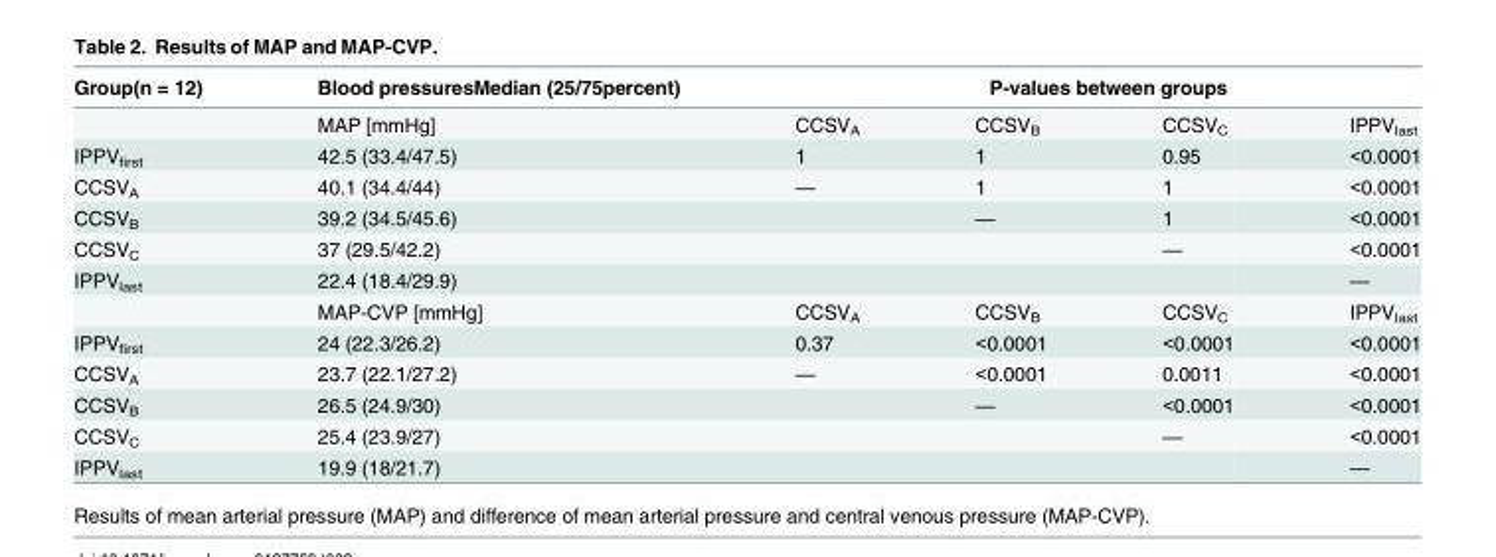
<table><thead><tr><td rowspan="2">Group(n = 12)</td><td rowspan="2">Blood pressuresMedian (25/75percent) MAP [mmHg]</td><td colspan="4">P-values between groups</td></tr><tr><td>CCSV<sub>A</sub></td><td>CCSV<sub>B</sub></td><td>CCSV<sub>C</sub></td><td>IPPV<sub>last</sub></td></tr></thead><tbody><tr><td>IPPV<sub>first</sub></td><td>42.5 (33.4/47.5)</td><td>1</td><td>1</td><td>0.95</td><td>&lt;0.0001</td></tr><tr><td>CCSV<sub>A</sub></td><td>40.1 (34.4/44)</td><td>—</td><td>1</td><td>1</td><td>&lt;0.0001</td></tr><tr><td>CCSV<sub>B</sub></td><td>39.2 (34.5/45.6)</td><td></td><td>—</td><td>1</td><td>&lt;0.0001</td></tr><tr><td>CCSV<sub>C</sub></td><td>37 (29.5/42.2)</td><td></td><td></td><td>—</td><td>&lt;0.0001</td></tr><tr><td rowspan="2">IPPV<sub>last</sub></td><td>22.4 (18.4/29.9)</td><td></td><td></td><td></td><td>—</td></tr><tr><td>MAP-CVP [mmHg]</td><td>CCSV<sub>A</sub></td><td>CCSV<sub>B</sub></td><td>CCSV<sub>C</sub></td><td>IPPV<sub>last</sub></td></tr><tr><td>IPPV<sub>first</sub></td><td>24 (22.3/26.2)</td><td>0.37</td><td>&lt;0.0001</td><td>&lt;0.0001</td><td>&lt;0.0001</td></tr><tr><td>CCSV<sub>A</sub></td><td>23.7 (22.1/27.2)</td><td>—</td><td>&lt;0.0001</td><td>0.0011</td><td>&lt;0.0001</td></tr><tr><td>CCSV<sub>B</sub></td><td>26.5 (24.9/30)</td><td></td><td>—</td><td>&lt;0.0001</td><td>&lt;0.0001</td></tr><tr><td>CCSV<sub>C</sub></td><td>25.4 (23.9/27)</td><td></td><td></td><td>—</td><td>&lt;0.0001</td></tr><tr><td>IPPV<sub>last</sub></td><td>19.9 (18/21.7)</td><td></td><td></td><td></td><td>—</td></tr></tbody></table>